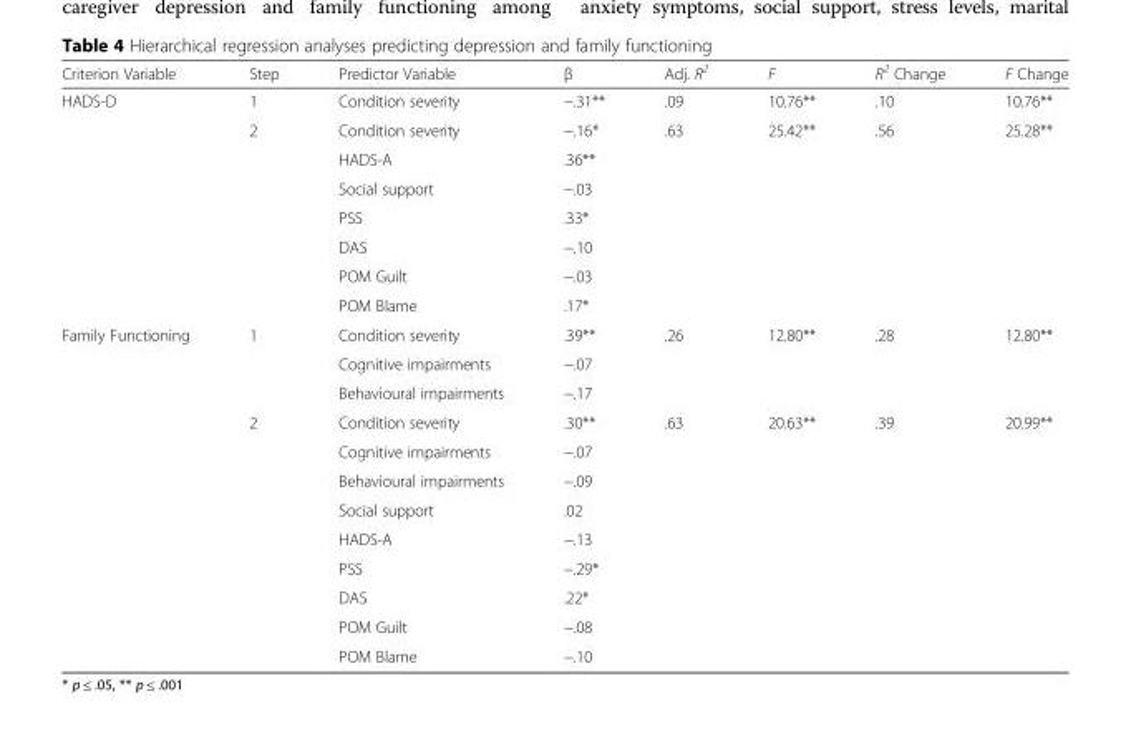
<table><thead><tr><td>Criterion Variable</td><td>Step</td><td>Predictor Variable</td><td>β</td><td>Adj. R<sup>2</sup></td><td>F</td><td>R<sup>2</sup> Change</td><td>F Change</td></tr></thead><tbody><tr><td rowspan="8">HADS-D</td><td>1</td><td>Condition severity</td><td>−.31**</td><td>.09</td><td>10.76**</td><td>.10</td><td>10.76**</td></tr><tr><td>2</td><td>Condition severity</td><td>−.16*</td><td>.63</td><td>25.42**</td><td>.56</td><td>25.28**</td></tr><tr><td rowspan="6"></td><td>HADS-A</td><td>.36**</td><td rowspan="6" colspan="4"></td></tr><tr><td>Social support</td><td>−.03</td></tr><tr><td>PSS</td><td>.33*</td></tr><tr><td>DAS</td><td>−.10</td></tr><tr><td>POM Guilt</td><td>−.03</td></tr><tr><td>POM Blame</td><td>.17*</td></tr><tr><td rowspan="12">Family Functioning</td><td>1</td><td>Condition severity</td><td>.39**</td><td>.26</td><td>12.80**</td><td>.28</td><td>12.80**</td></tr><tr><td rowspan="2"></td><td>Cognitive impairments</td><td>−.07</td><td rowspan="2" colspan="4"></td></tr><tr><td>Behavioural impairments</td><td>−.17</td></tr><tr><td>2</td><td>Condition severity</td><td>.30**</td><td>.63</td><td>20.63**</td><td>.39</td><td>20.99**</td></tr><tr><td rowspan="8"></td><td>Cognitive impairments</td><td>−.07</td><td rowspan="8" colspan="4"></td></tr><tr><td>Behavioural impairments</td><td>−.09</td></tr><tr><td>Social support</td><td>.02</td></tr><tr><td>HADS-A</td><td>−.13</td></tr><tr><td>PSS</td><td>−.29*</td></tr><tr><td>DAS</td><td>.22*</td></tr><tr><td>POM Guilt</td><td>−.08</td></tr><tr><td>POM Blame</td><td>−.10</td></tr></tbody></table>